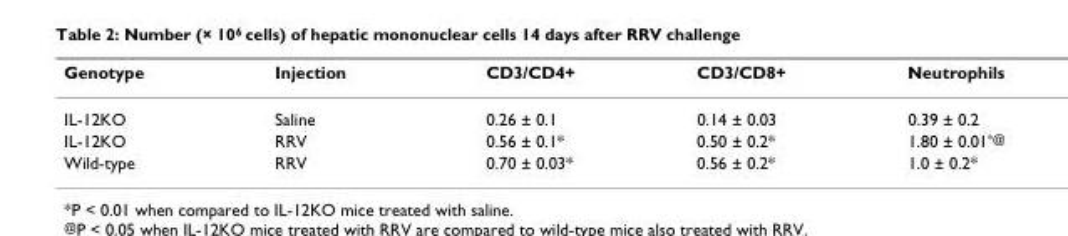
<table><thead><tr><td>Genotype</td><td>Injection</td><td>CD3/CD4+</td><td>CD3/CD8+</td><td>Neutrophils</td></tr></thead><tbody><tr><td>IL-12KO</td><td>Saline</td><td>0.26 ± 0.1</td><td>0.14 ± 0.03</td><td>0.39 ± 0.2</td></tr><tr><td>IL-12KO</td><td>RRV</td><td>0.56 ± 0.1*</td><td>0.50 ± 0.2*</td><td>1.80 ± 0.01<sup>*@</sup></td></tr><tr><td>Wild-type</td><td>RRV</td><td>0.70 ± 0.03*</td><td>0.56 ± 0.2*</td><td>1.0 ± 0.2*</td></tr></tbody></table>